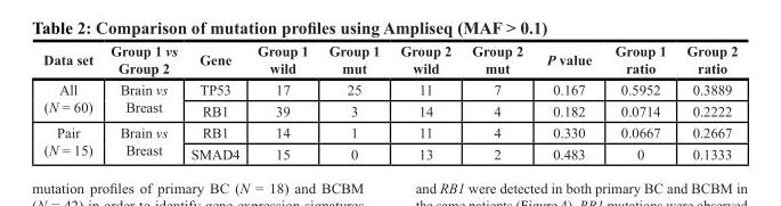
<table><thead><tr><td>Data set</td><td>Group 1 vs Group 2</td><td>Gene</td><td>Group 1 wild</td><td>Group 1 mut</td><td>Group 2 wild</td><td>Group 2 mut</td><td>P value</td><td>Group 1 ratio</td><td>Group 2 ratio</td></tr></thead><tbody><tr><td rowspan="2">All (N = 60)</td><td rowspan="2">Brain vs Breast</td><td>TP53</td><td>17</td><td>25</td><td>11</td><td>7</td><td>0.167</td><td>0.5952</td><td>0.3889</td></tr><tr><td>RB1</td><td>39</td><td>3</td><td>14</td><td>4</td><td>0.182</td><td>0.0714</td><td>0.2222</td></tr><tr><td rowspan="2">Pair (N = 15)</td><td rowspan="2">Brain vs Breast</td><td>RB1</td><td>14</td><td>1</td><td>11</td><td>4</td><td>0.330</td><td>0.0667</td><td>0.2667</td></tr><tr><td>SMAD4</td><td>15</td><td>0</td><td>13</td><td>2</td><td>0.483</td><td>0</td><td>0.1333</td></tr></tbody></table>